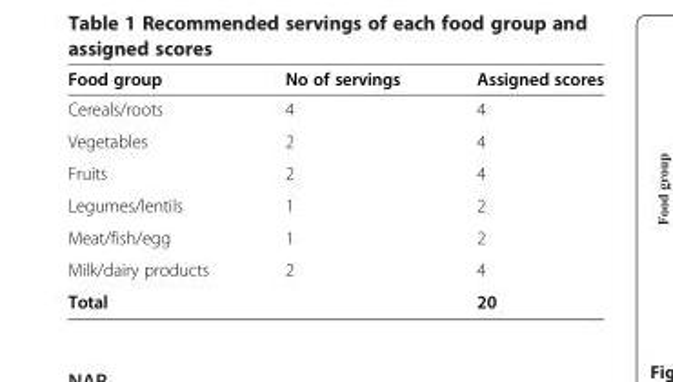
<table><thead><tr><td>Food group</td><td>No of servings</td><td>Assigned scores</td></tr></thead><tbody><tr><td>Cereals/roots</td><td>4</td><td>4</td></tr><tr><td>Vegetables</td><td>2</td><td>4</td></tr><tr><td>Fruits</td><td>2</td><td>4</td></tr><tr><td>Legumes/lentils</td><td>1</td><td>2</td></tr><tr><td>Meat/fish/egg</td><td>1</td><td>2</td></tr><tr><td>Milk/dairy products</td><td>2</td><td>4</td></tr><tr><td>Total</td><td></td><td>20</td></tr></tbody></table>